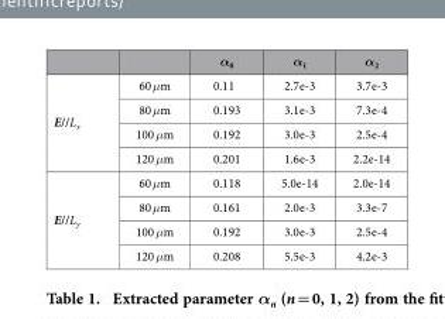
<table><thead><tr><td></td><td></td><td>α<sub>0</sub></td><td>α<sub>1</sub></td><td>α<sub>2</sub></td></tr></thead><tbody><tr><td rowspan="4">E//L<sub>x</sub></td><td>60 μm</td><td>0.11</td><td>2.7e-3</td><td>3.7e-3</td></tr><tr><td>80 μm</td><td>0.193</td><td>3.1e-3</td><td>7.3e-4</td></tr><tr><td>100 μm</td><td>0.192</td><td>3.0e-3</td><td>2.5e-4</td></tr><tr><td>120 μm</td><td>0.201</td><td>1.6e-3</td><td>2.2e-14</td></tr><tr><td rowspan="4">E//L<sub>y</sub></td><td>60 μm</td><td>0.118</td><td>5.0e-14</td><td>2.0e-14</td></tr><tr><td>80 μm</td><td>0.161</td><td>2.0e-3</td><td>3.3e-7</td></tr><tr><td>100 μm</td><td>0.192</td><td>3.0e-3</td><td>2.5e-4</td></tr><tr><td>120 μm</td><td>0.208</td><td>5.5e-3</td><td>4.2e-3</td></tr></tbody></table>